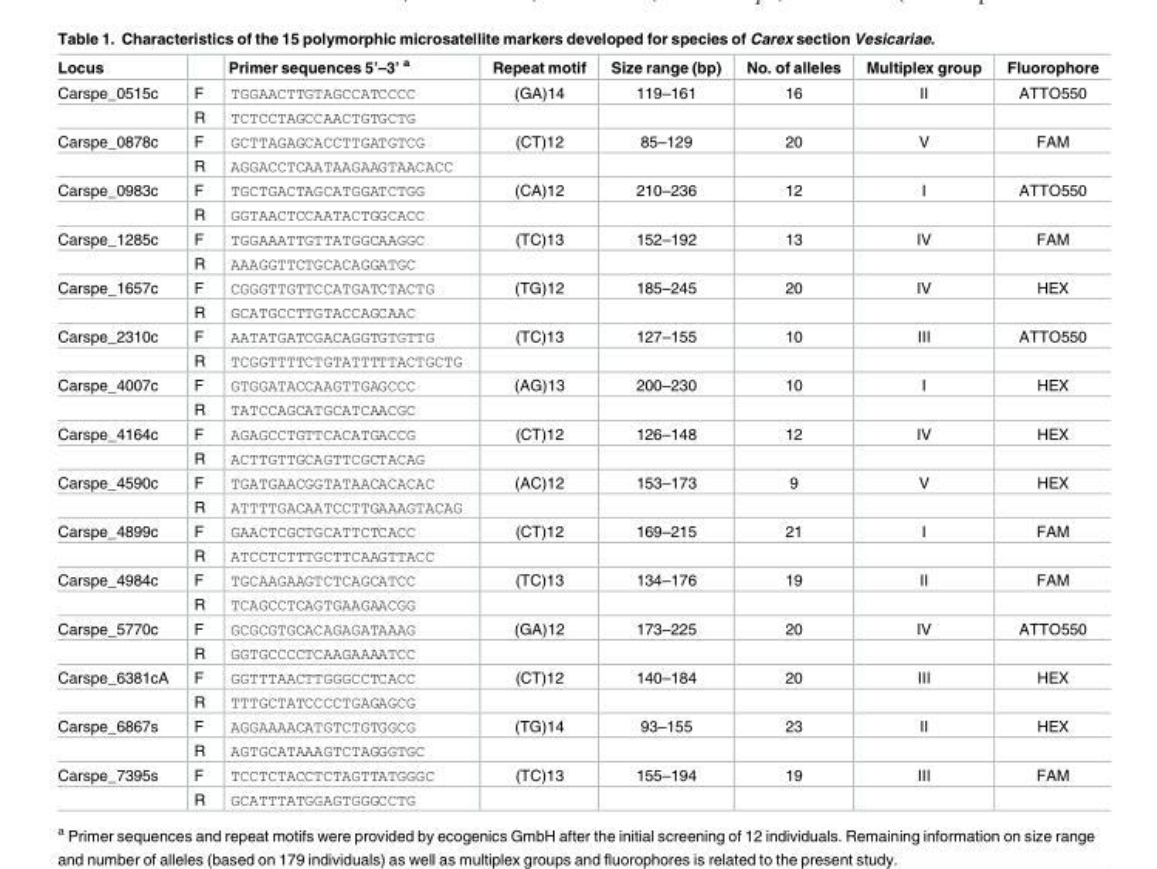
<table><thead><tr><td>Locus</td><td></td><td>Primer sequences 5’–3’ <sup>a</sup></td><td>Repeat motif</td><td>Size range (bp)</td><td>No. of alleles</td><td>Multiplex group</td><td>Fluorophore</td></tr></thead><tbody><tr><td rowspan="2">Carspe_0515c</td><td>F</td><td>TGGAACTTGTAGCCATCCCC</td><td>(GA)14</td><td>119–161</td><td>16</td><td>II</td><td>ATTO550</td></tr><tr><td>R</td><td>TCTCCTAGCCAACTGTGCTG</td><td></td><td></td><td></td><td></td><td></td></tr><tr><td rowspan="2">Carspe_0878c</td><td>F</td><td>GCTTAGAGCACCTTGATGTCG</td><td>(CT)12</td><td>85–129</td><td>20</td><td>V</td><td>FAM</td></tr><tr><td>R</td><td>AGGACCTCAATAAGAAGTAACACC</td><td></td><td></td><td></td><td></td><td></td></tr><tr><td rowspan="2">Carspe_0983c</td><td>F</td><td>TGCTGACTAGCATGGATCTGG</td><td>(CA)12</td><td>210–236</td><td>12</td><td>I</td><td>ATTO550</td></tr><tr><td>R</td><td>GGTAACTCCAATACTGGCACC</td><td></td><td></td><td></td><td></td><td></td></tr><tr><td rowspan="2">Carspe_1285c</td><td>F</td><td>TGGAAATTGTTATGGCAAGGC</td><td>(TC)13</td><td>152–192</td><td>13</td><td>IV</td><td>FAM</td></tr><tr><td>R</td><td>AAAGGTTCTGCACAGGATGC</td><td></td><td></td><td></td><td></td><td></td></tr><tr><td rowspan="2">Carspe_1657c</td><td>F</td><td>CGGGTTGTTCCATGATCTACTG</td><td>(TG)12</td><td>185–245</td><td>20</td><td>IV</td><td>HEX</td></tr><tr><td>R</td><td>GCATGCCTTGTACCAGCAAC</td><td></td><td></td><td></td><td></td><td></td></tr><tr><td rowspan="2">Carspe_2310c</td><td>F</td><td>AATATGATCGACAGGTGTGTTG</td><td>(TC)13</td><td>127–155</td><td>10</td><td>III</td><td>ATTO550</td></tr><tr><td>R</td><td>TCGGTTTTCTGTATTTTTACTGCTG</td><td></td><td></td><td></td><td></td><td></td></tr><tr><td rowspan="2">Carspe_4007c</td><td>F</td><td>GTGGATACCAAGTTGAGCCC</td><td>(AG)13</td><td>200–230</td><td>10</td><td>I</td><td>HEX</td></tr><tr><td>R</td><td>TATCCAGCATGCATCAACGC</td><td></td><td></td><td></td><td></td><td></td></tr><tr><td rowspan="2">Carspe_4164c</td><td>F</td><td>AGAGCCTGTTCACATGACCG</td><td>(CT)12</td><td>126–148</td><td>12</td><td>IV</td><td>HEX</td></tr><tr><td>R</td><td>ACTTGTTGCAGTTCGCTACAG</td><td></td><td></td><td></td><td></td><td></td></tr><tr><td rowspan="2">Carspe_4590c</td><td>F</td><td>TGATGAACGGTATAACACACAC</td><td>(AC)12</td><td>153–173</td><td>9</td><td>V</td><td>HEX</td></tr><tr><td>R</td><td>ATTTTGACAATCCTTGAAAGTACAG</td><td></td><td></td><td></td><td></td><td></td></tr><tr><td rowspan="2">Carspe_4899c</td><td>F</td><td>GAACTCGCTGCATTCTCACC</td><td>(CT)12</td><td>169–215</td><td>21</td><td>I</td><td>FAM</td></tr><tr><td>R</td><td>ATCCTCTTTGCTTCAAGTTACC</td><td></td><td></td><td></td><td></td><td></td></tr><tr><td rowspan="2">Carspe_4984c</td><td>F</td><td>TGCAAGAAGTCTCAGCATCC</td><td>(TC)13</td><td>134–176</td><td>19</td><td>II</td><td>FAM</td></tr><tr><td>R</td><td>TCAGCCTCAGTGAAGAACGG</td><td></td><td></td><td></td><td></td><td></td></tr><tr><td rowspan="2">Carspe_5770c</td><td>F</td><td>GCGCGTGCACAGAGATAAAG</td><td>(GA)12</td><td>173–225</td><td>20</td><td>IV</td><td>ATTO550</td></tr><tr><td>R</td><td>GGTGCCCCTCAAGAAAATCC</td><td></td><td></td><td></td><td></td><td></td></tr><tr><td rowspan="2">Carspe_6381cA</td><td>F</td><td>GGTTTAACTTGGGCCTCACC</td><td>(CT)12</td><td>140–184</td><td>20</td><td>III</td><td>HEX</td></tr><tr><td>R</td><td>TTTGCTATCCCCTGAGAGCG</td><td></td><td></td><td></td><td></td><td></td></tr><tr><td rowspan="2">Carspe_6867s</td><td>F</td><td>AGGAAAACATGTCTGTGGCG</td><td>(TG)14</td><td>93–155</td><td>23</td><td>II</td><td>HEX</td></tr><tr><td>R</td><td>AGTGCATAAAGTCTAGGGTGC</td><td></td><td></td><td></td><td></td><td></td></tr><tr><td rowspan="2">Carspe_7395s</td><td>F</td><td>TCCTCTACCTCTAGTTATGGGC</td><td>(TC)13</td><td>155–194</td><td>19</td><td>III</td><td>FAM</td></tr><tr><td>R</td><td>GCATTTATGGAGTGGGCCTG</td><td></td><td></td><td></td><td></td><td></td></tr></tbody></table>